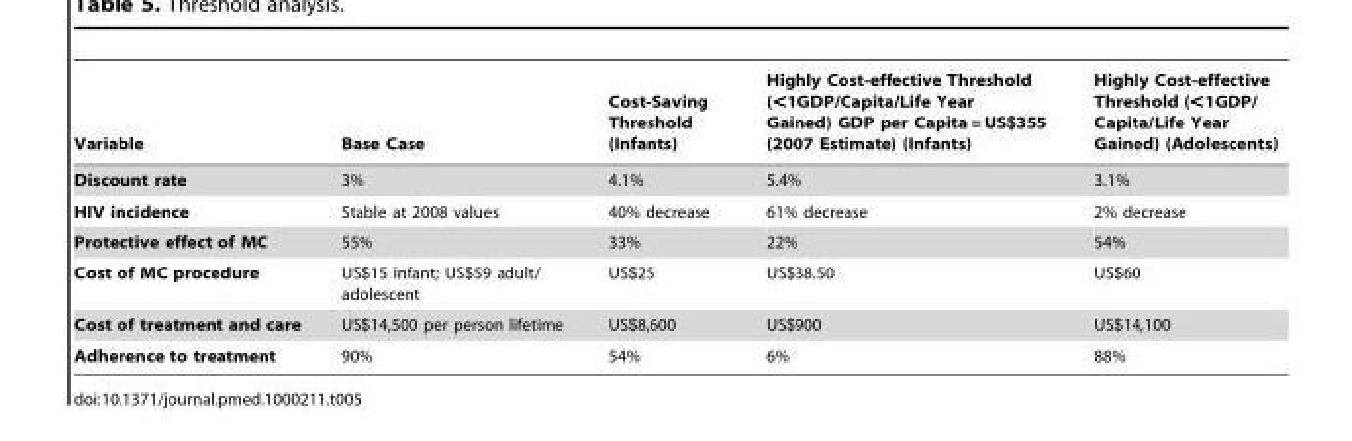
<table><thead><tr><td>Variable</td><td>Base Case</td><td>Cost-Saving Threshold (Infants)</td><td>Highly Cost-effective Threshold (&lt;1GDP/Capita/Life Year Gained) GDP per Capita = US$355 (2007 Estimate) (Infants)</td><td>Highly Cost-effective Threshold (&lt;1GDP/ Capita/Life Year Gained) (Adolescents)</td></tr></thead><tbody><tr><td>Discount rate</td><td>3%</td><td>4.1%</td><td>5.4%</td><td>3.1%</td></tr><tr><td>HIV incidence</td><td>Stable at 2008 values</td><td>40% decrease</td><td>61% decrease</td><td>2% decrease</td></tr><tr><td>Protective effect of MC</td><td>55%</td><td>33%</td><td>22%</td><td>54%</td></tr><tr><td>Cost of MC procedure</td><td>US$15 infant; US$59 adult/ adolescent</td><td>US$25</td><td>US$38.50</td><td>US$60</td></tr><tr><td>Cost of treatment and care</td><td>US$14,500 per person lifetime</td><td>US$8,600</td><td>US$900</td><td>US$14,100</td></tr><tr><td>Adherence to treatment</td><td>90%</td><td>54%</td><td>6%</td><td>88%</td></tr></tbody></table>